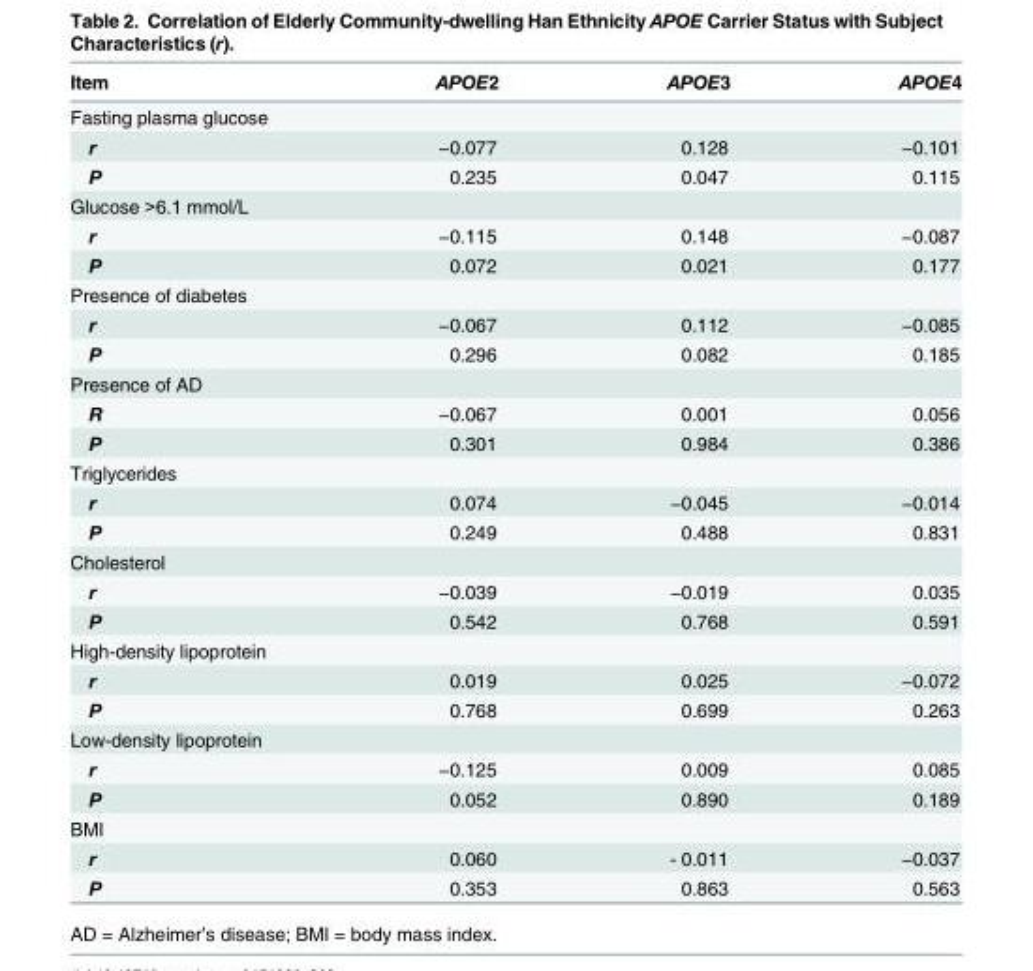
<table><thead><tr><td>Item</td><td>APOE2</td><td>APOE3</td><td>APOE4</td></tr></thead><tbody><tr><td colspan="4">Fasting plasma glucose</td></tr><tr><td>r</td><td>−0.077</td><td>0.128</td><td>−0.101</td></tr><tr><td>P</td><td>0.235</td><td>0.047</td><td>0.115</td></tr><tr><td colspan="4">Glucose &gt;6.1 mmol/L</td></tr><tr><td>r</td><td>−0.115</td><td>0.148</td><td>−0.087</td></tr><tr><td>P</td><td>0.072</td><td>0.021</td><td>0.177</td></tr><tr><td colspan="4">Presence of diabetes</td></tr><tr><td>r</td><td>−0.067</td><td>0.112</td><td>−0.085</td></tr><tr><td>P</td><td>0.296</td><td>0.082</td><td>0.185</td></tr><tr><td colspan="4">Presence of AD</td></tr><tr><td>R</td><td>−0.067</td><td>0.001</td><td>0.056</td></tr><tr><td>P</td><td>0.301</td><td>0.984</td><td>0.386</td></tr><tr><td colspan="4">Triglycerides</td></tr><tr><td>r</td><td>0.074</td><td>−0.045</td><td>−0.014</td></tr><tr><td>P</td><td>0.249</td><td>0.488</td><td>0.831</td></tr><tr><td colspan="4">Cholesterol</td></tr><tr><td>r</td><td>−0.039</td><td>−0.019</td><td>0.035</td></tr><tr><td>P</td><td>0.542</td><td>0.768</td><td>0.591</td></tr><tr><td colspan="4">High-density lipoprotein</td></tr><tr><td>r</td><td>0.019</td><td>0.025</td><td>−0.072</td></tr><tr><td>P</td><td>0.768</td><td>0.699</td><td>0.263</td></tr><tr><td colspan="4">Low-density lipoprotein</td></tr><tr><td>r</td><td>−0.125</td><td>0.009</td><td>0.085</td></tr><tr><td>P</td><td>0.052</td><td>0.890</td><td>0.189</td></tr><tr><td colspan="4">BMI</td></tr><tr><td>r</td><td>0.060</td><td>- 0.011</td><td>−0.037</td></tr><tr><td>P</td><td>0.353</td><td>0.863</td><td>0.563</td></tr></tbody></table>